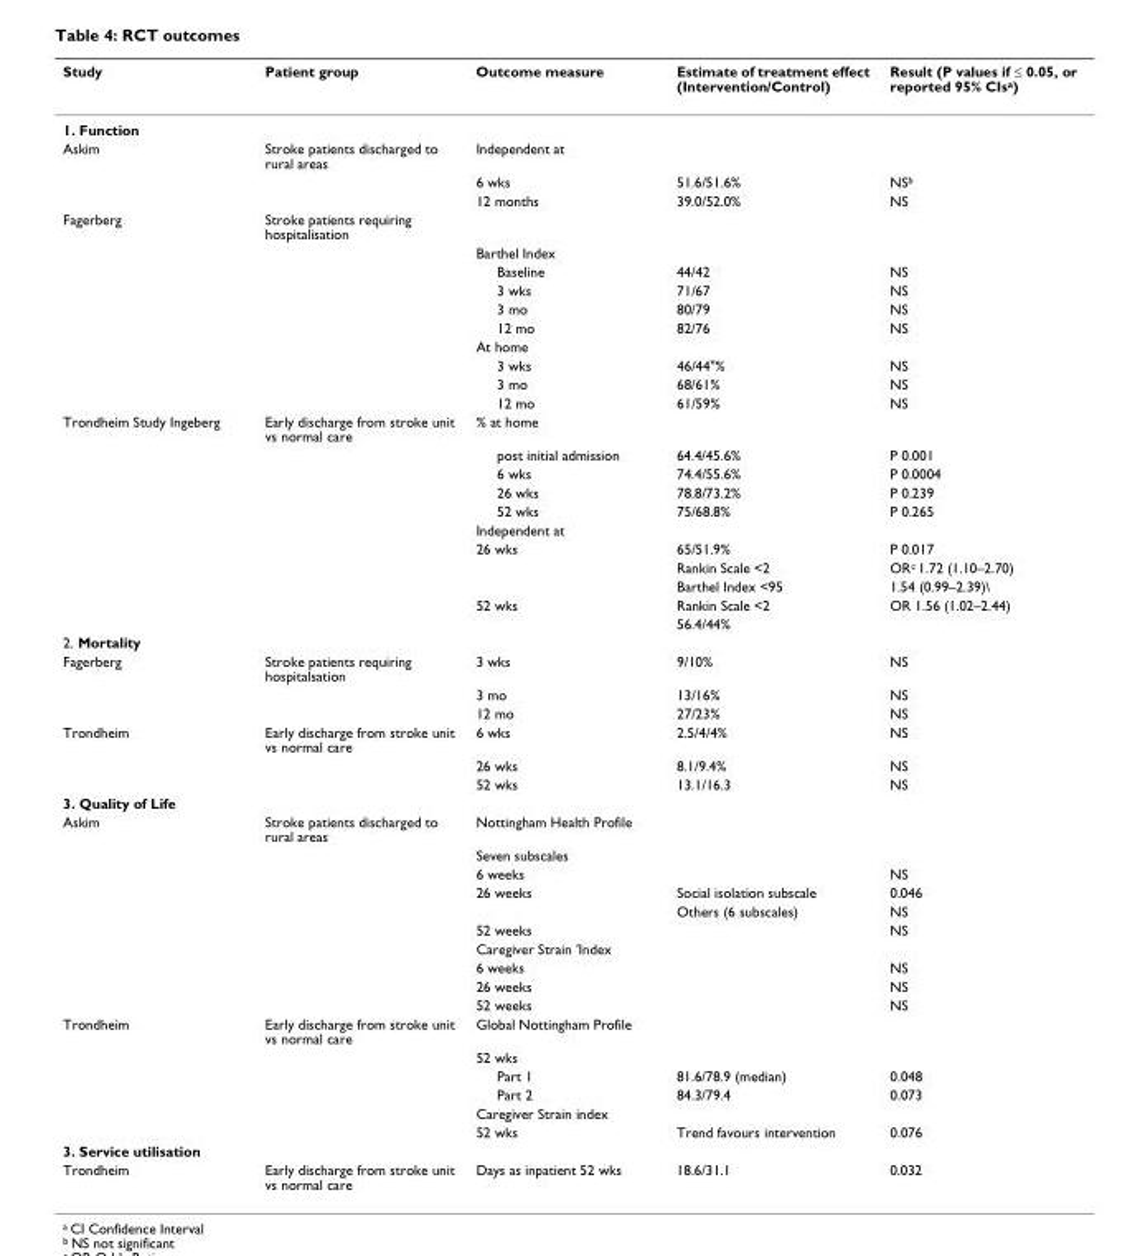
<table><thead><tr><td>Study</td><td>Patient group</td><td>Outcome measure</td><td>Estimate of treatment effect (Intervention/Control)</td><td>Result (P values if ≤ 0.05, or reported 95% CIs<sup>a</sup>)</td></tr></thead><tbody><tr><td colspan="5">1. Function</td></tr><tr><td rowspan="3">Askim</td><td>Stroke patients discharged to rural areas</td><td>Independent at</td><td></td><td></td></tr><tr><td></td><td>6 wks</td><td>51.6/51.6%</td><td>NS<sup>b</sup></td></tr><tr><td></td><td>12 months</td><td>39.0/52.0%</td><td>NS</td></tr><tr><td rowspan="10">Fagerberg</td><td>Stroke patients requiring hospitalisation</td><td></td><td></td><td></td></tr><tr><td></td><td>Barthel Index</td><td></td><td></td></tr><tr><td></td><td>Baseline</td><td>44/42</td><td>NS</td></tr><tr><td></td><td>3 wks</td><td>71/67</td><td>NS</td></tr><tr><td></td><td>3 mo</td><td>80/79</td><td>NS</td></tr><tr><td></td><td>12 mo</td><td>82/76</td><td>NS</td></tr><tr><td></td><td>At home</td><td></td><td></td></tr><tr><td></td><td>3 wks</td><td>46/44&quot;%</td><td>NS</td></tr><tr><td></td><td>3 mo</td><td>68/61%</td><td>NS</td></tr><tr><td></td><td>12 mo</td><td>61/59%</td><td>NS</td></tr><tr><td rowspan="11">Trondheim Study Ingeberg</td><td>Early discharge from stroke unit vs normal care</td><td>% at home</td><td></td><td></td></tr><tr><td></td><td>post initial admission</td><td>64.4/45.6%</td><td>P 0.001</td></tr><tr><td></td><td>6 wks</td><td>74.4/55.6%</td><td>P 0.0004</td></tr><tr><td></td><td>26 wks</td><td>78.8/73.2%</td><td>P 0.239</td></tr><tr><td></td><td>52 wks</td><td>75/68.8%</td><td>P 0.265</td></tr><tr><td></td><td>Independent at</td><td></td><td></td></tr><tr><td></td><td>26 wks</td><td>65/51.9%</td><td>P 0.017</td></tr><tr><td></td><td></td><td>Rankin Scale &lt;2</td><td>OR<sup>c</sup> 1.72 (1.10–2.70)</td></tr><tr><td></td><td></td><td>Barthel Index &lt;95</td><td>1.54 (0.99–2.39)\</td></tr><tr><td></td><td>52 wks</td><td>Rankin Scale &lt;2</td><td>OR 1.56 (1.02–2.44)</td></tr><tr><td></td><td></td><td>56.4/44%</td><td></td></tr><tr><td colspan="5">2. Mortality</td></tr><tr><td rowspan="3">Fagerberg</td><td>Stroke patients requiring hospitalsation</td><td>3 wks</td><td>9/10%</td><td>NS</td></tr><tr><td></td><td>3 mo</td><td>13/16%</td><td>NS</td></tr><tr><td></td><td>12 mo</td><td>27/23%</td><td>NS</td></tr><tr><td rowspan="3">Trondheim</td><td>Early discharge from stroke unit vs normal care</td><td>6 wks</td><td>2.5/4/4%</td><td>NS</td></tr><tr><td></td><td>26 wks</td><td>8.1/9.4%</td><td>NS</td></tr><tr><td></td><td>52 wks</td><td>13.1/16.3</td><td>NS</td></tr><tr><td colspan="5">3. Quality of Life</td></tr><tr><td rowspan="10">Askim</td><td>Stroke patients discharged to rural areas</td><td>Nottingham Health Profile</td><td></td><td></td></tr><tr><td></td><td>Seven subscales</td><td></td><td></td></tr><tr><td></td><td>6 weeks</td><td></td><td>NS</td></tr><tr><td></td><td>26 weeks</td><td>Social isolation subscale</td><td>0.046</td></tr><tr><td></td><td></td><td>Others (6 subscales)</td><td>NS</td></tr><tr><td></td><td>52 weeks</td><td></td><td>NS</td></tr><tr><td></td><td>Caregiver Strain &#x27;Index</td><td></td><td></td></tr><tr><td></td><td>6 weeks</td><td></td><td>NS</td></tr><tr><td></td><td>26 weeks</td><td></td><td>NS</td></tr><tr><td></td><td>52 weeks</td><td></td><td>NS</td></tr><tr><td rowspan="6">Trondheim</td><td>Early discharge from stroke unit vs normal care</td><td>Global Nottingham Profile</td><td></td><td></td></tr><tr><td></td><td>52 wks</td><td></td><td></td></tr><tr><td></td><td>Part 1</td><td>81.6/78.9 (median)</td><td>0.048</td></tr><tr><td></td><td>Part 2</td><td>84.3/79.4</td><td>0.073</td></tr><tr><td></td><td>Caregiver Strain index</td><td></td><td></td></tr><tr><td></td><td>52 wks</td><td>Trend favours intervention</td><td>0.076</td></tr><tr><td colspan="5">3. Service utilisation</td></tr><tr><td>Trondheim</td><td>Early discharge from stroke unit vs normal care</td><td>Days as inpatient 52 wks</td><td>18.6/31.1</td><td>0.032</td></tr></tbody></table>